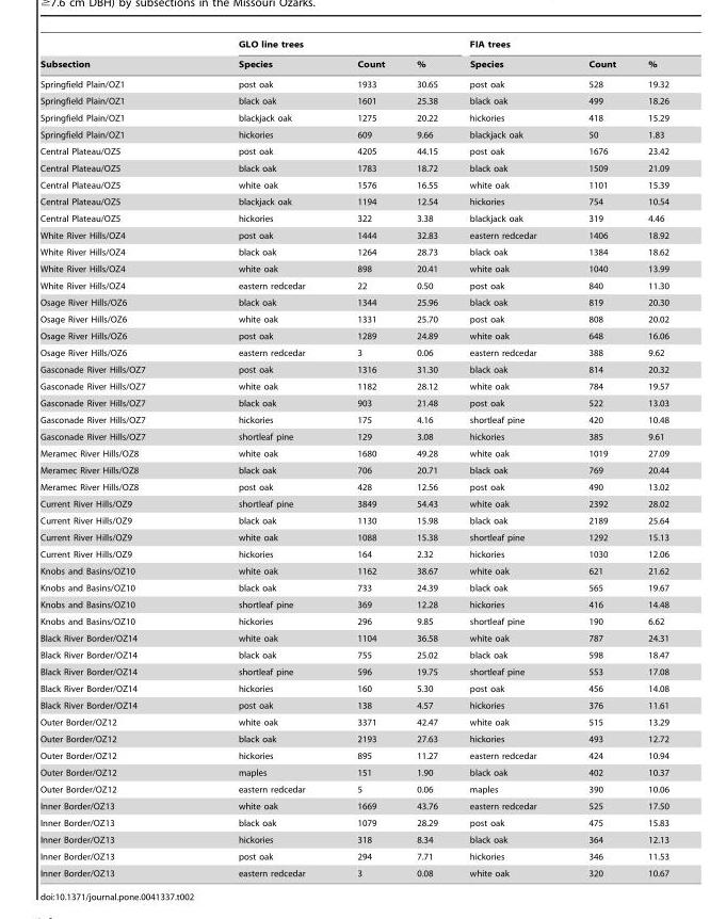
<table><thead><tr><td rowspan="2">Subsection</td><td colspan="3">GLO line trees</td><td colspan="3">FIA trees</td></tr><tr><td>Species</td><td>Count</td><td>%</td><td>Species</td><td>Count</td><td>%</td></tr></thead><tbody><tr><td>Springfield Plain/OZ1</td><td>post oak</td><td>1933</td><td>30.65</td><td>post oak</td><td>528</td><td>19.32</td></tr><tr><td>Springfield Plain/OZ1</td><td>black oak</td><td>1601</td><td>25.38</td><td>black oak</td><td>499</td><td>18.26</td></tr><tr><td>Springfield Plain/OZ1</td><td>blackjack oak</td><td>1275</td><td>20.22</td><td>hickories</td><td>418</td><td>15.29</td></tr><tr><td>Springfield Plain/OZ1</td><td>hickories</td><td>609</td><td>9.66</td><td>blackjack oak</td><td>50</td><td>1.83</td></tr><tr><td>Central Plateau/OZ5</td><td>post oak</td><td>4205</td><td>44.15</td><td>post oak</td><td>1676</td><td>23.42</td></tr><tr><td>Central Plateau/OZ5</td><td>black oak</td><td>1783</td><td>18.72</td><td>black oak</td><td>1509</td><td>21.09</td></tr><tr><td>Central Plateau/OZ5</td><td>white oak</td><td>1576</td><td>16.55</td><td>white oak</td><td>1101</td><td>15.39</td></tr><tr><td>Central Plateau/OZ5</td><td>blackjack oak</td><td>1194</td><td>12.54</td><td>hickories</td><td>754</td><td>10.54</td></tr><tr><td>Central Plateau/OZ5</td><td>hickories</td><td>322</td><td>3.38</td><td>blackjack oak</td><td>319</td><td>4.46</td></tr><tr><td>White River Hills/OZ4</td><td>post oak</td><td>1444</td><td>32.83</td><td>eastern redcedar</td><td>1406</td><td>18.92</td></tr><tr><td>White River Hills/OZ4</td><td>black oak</td><td>1264</td><td>28.73</td><td>black oak</td><td>1384</td><td>18.62</td></tr><tr><td>White River Hills/OZ4</td><td>white oak</td><td>898</td><td>20.41</td><td>white oak</td><td>1040</td><td>13.99</td></tr><tr><td>White River Hills/OZ4</td><td>eastern redcedar</td><td>22</td><td>0.50</td><td>post oak</td><td>840</td><td>11.30</td></tr><tr><td>Osage River Hills/OZ6</td><td>black oak</td><td>1344</td><td>25.96</td><td>black oak</td><td>819</td><td>20.30</td></tr><tr><td>Osage River Hills/OZ6</td><td>white oak</td><td>1331</td><td>25.70</td><td>post oak</td><td>808</td><td>20.02</td></tr><tr><td>Osage River Hills/OZ6</td><td>post oak</td><td>1289</td><td>24.89</td><td>white oak</td><td>648</td><td>16.06</td></tr><tr><td>Osage River Hills/OZ6</td><td>eastern redcedar</td><td>3</td><td>0.06</td><td>eastern redcedar</td><td>388</td><td>9.62</td></tr><tr><td>Gasconade River Hills/OZ7</td><td>post oak</td><td>1316</td><td>31.30</td><td>black oak</td><td>814</td><td>20.32</td></tr><tr><td>Gasconade River Hills/OZ7</td><td>white oak</td><td>1182</td><td>28.12</td><td>white oak</td><td>784</td><td>19.57</td></tr><tr><td>Gasconade River Hills/OZ7</td><td>black oak</td><td>903</td><td>21.48</td><td>post oak</td><td>522</td><td>13.03</td></tr><tr><td>Gasconade River Hills/OZ7</td><td>hickories</td><td>175</td><td>4.16</td><td>shortleaf pine</td><td>420</td><td>10.48</td></tr><tr><td>Gasconade River Hills/OZ7</td><td>shortleaf pine</td><td>129</td><td>3.08</td><td>hickories</td><td>385</td><td>9.61</td></tr><tr><td>Meramec River Hills/OZ8</td><td>white oak</td><td>1680</td><td>49.28</td><td>white oak</td><td>1019</td><td>27.09</td></tr><tr><td>Meramec River Hills/OZ8</td><td>black oak</td><td>706</td><td>20.71</td><td>black oak</td><td>769</td><td>20.44</td></tr><tr><td>Meramec River Hills/OZ8</td><td>post oak</td><td>428</td><td>12.56</td><td>post oak</td><td>490</td><td>13.02</td></tr><tr><td>Current River Hills/OZ9</td><td>shortleaf pine</td><td>3849</td><td>54.43</td><td>white oak</td><td>2392</td><td>28.02</td></tr><tr><td>Current River Hills/OZ9</td><td>black oak</td><td>1130</td><td>15.98</td><td>black oak</td><td>2189</td><td>25.64</td></tr><tr><td>Current River Hills/OZ9</td><td>white oak</td><td>1088</td><td>15.38</td><td>shortleaf pine</td><td>1292</td><td>15.13</td></tr><tr><td>Current River Hills/OZ9</td><td>hickories</td><td>164</td><td>2.32</td><td>hickories</td><td>1030</td><td>12.06</td></tr><tr><td>Knobs and Basins/OZ10</td><td>white oak</td><td>1162</td><td>38.67</td><td>white oak</td><td>621</td><td>21.62</td></tr><tr><td>Knobs and Basins/OZ10</td><td>black oak</td><td>733</td><td>24.39</td><td>black oak</td><td>565</td><td>19.67</td></tr><tr><td>Knobs and Basins/OZ10</td><td>shortleaf pine</td><td>369</td><td>12.28</td><td>hickories</td><td>416</td><td>14.48</td></tr><tr><td>Knobs and Basins/OZ10</td><td>hickories</td><td>296</td><td>9.85</td><td>shortleaf pine</td><td>190</td><td>6.62</td></tr><tr><td>Black River Border/OZ14</td><td>white oak</td><td>1104</td><td>36.58</td><td>white oak</td><td>787</td><td>24.31</td></tr><tr><td>Black River Border/OZ14</td><td>black oak</td><td>755</td><td>25.02</td><td>black oak</td><td>598</td><td>18.47</td></tr><tr><td>Black River Border/OZ14</td><td>shortleaf pine</td><td>596</td><td>19.75</td><td>shortleaf pine</td><td>553</td><td>17.08</td></tr><tr><td>Black River Border/OZ14</td><td>hickories</td><td>160</td><td>5.30</td><td>post oak</td><td>456</td><td>14.08</td></tr><tr><td>Black River Border/OZ14</td><td>post oak</td><td>138</td><td>4.57</td><td>hickories</td><td>376</td><td>11.61</td></tr><tr><td>Outer Border/OZ12</td><td>white oak</td><td>3371</td><td>42.47</td><td>white oak</td><td>515</td><td>13.29</td></tr><tr><td>Outer Border/OZ12</td><td>black oak</td><td>2193</td><td>27.63</td><td>hickories</td><td>493</td><td>12.72</td></tr><tr><td>Outer Border/OZ12</td><td>hickories</td><td>895</td><td>11.27</td><td>eastern redcedar</td><td>424</td><td>10.94</td></tr><tr><td>Outer Border/OZ12</td><td>maples</td><td>151</td><td>1.90</td><td>black oak</td><td>402</td><td>10.37</td></tr><tr><td>Outer Border/OZ12</td><td>eastern redcedar</td><td>5</td><td>0.06</td><td>maples</td><td>390</td><td>10.06</td></tr><tr><td>Inner Border/OZ13</td><td>white oak</td><td>1669</td><td>43.76</td><td>eastern redcedar</td><td>525</td><td>17.50</td></tr><tr><td>Inner Border/OZ13</td><td>black oak</td><td>1079</td><td>28.29</td><td>post oak</td><td>475</td><td>15.83</td></tr><tr><td>Inner Border/OZ13</td><td>hickories</td><td>318</td><td>8.34</td><td>black oak</td><td>364</td><td>12.13</td></tr><tr><td>Inner Border/OZ13</td><td>post oak</td><td>294</td><td>7.71</td><td>hickories</td><td>346</td><td>11.53</td></tr><tr><td>Inner Border/OZ13</td><td>eastern redcedar</td><td>3</td><td>0.08</td><td>white oak</td><td>320</td><td>10.67</td></tr></tbody></table>